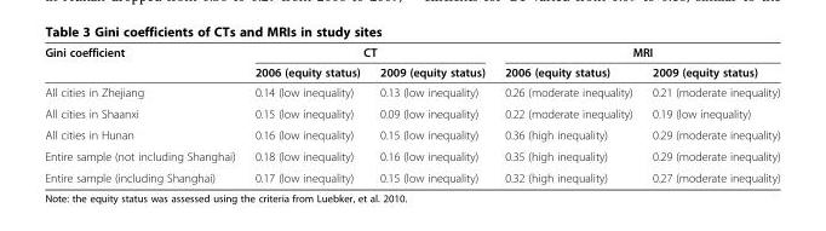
<table><thead><tr><td rowspan="2">Gini coefficient</td><td colspan="2">CT</td><td colspan="2">MRI</td></tr><tr><td>2006 (equity status)</td><td>2009 (equity status)</td><td>2006 (equity status)</td><td>2009 (equity status)</td></tr></thead><tbody><tr><td>All cities in Zhejiang</td><td>0.14 (low inequality)</td><td>0.13 (low inequality)</td><td>0.26 (moderate inequality)</td><td>0.21 (moderate inequality)</td></tr><tr><td>All cities in Shaanxi</td><td>0.15 (low inequality)</td><td>0.09 (low inequality)</td><td>0.22 (moderate inequality)</td><td>0.19 (low inequality)</td></tr><tr><td>All cities in Hunan</td><td>0.16 (low inequality)</td><td>0.15 (low inequality)</td><td>0.36 (high inequality)</td><td>0.29 (moderate inequality)</td></tr><tr><td>Entire sample (not including Shanghai)</td><td>0.18 (low inequality)</td><td>0.16 (low inequality)</td><td>0.35 (high inequality)</td><td>0.29 (moderate inequality)</td></tr><tr><td>Entire sample (including Shanghai)</td><td>0.17 (low inequality)</td><td>0.15 (low inequality)</td><td>0.32 (high inequality)</td><td>0.27 (moderate inequality)</td></tr></tbody></table>